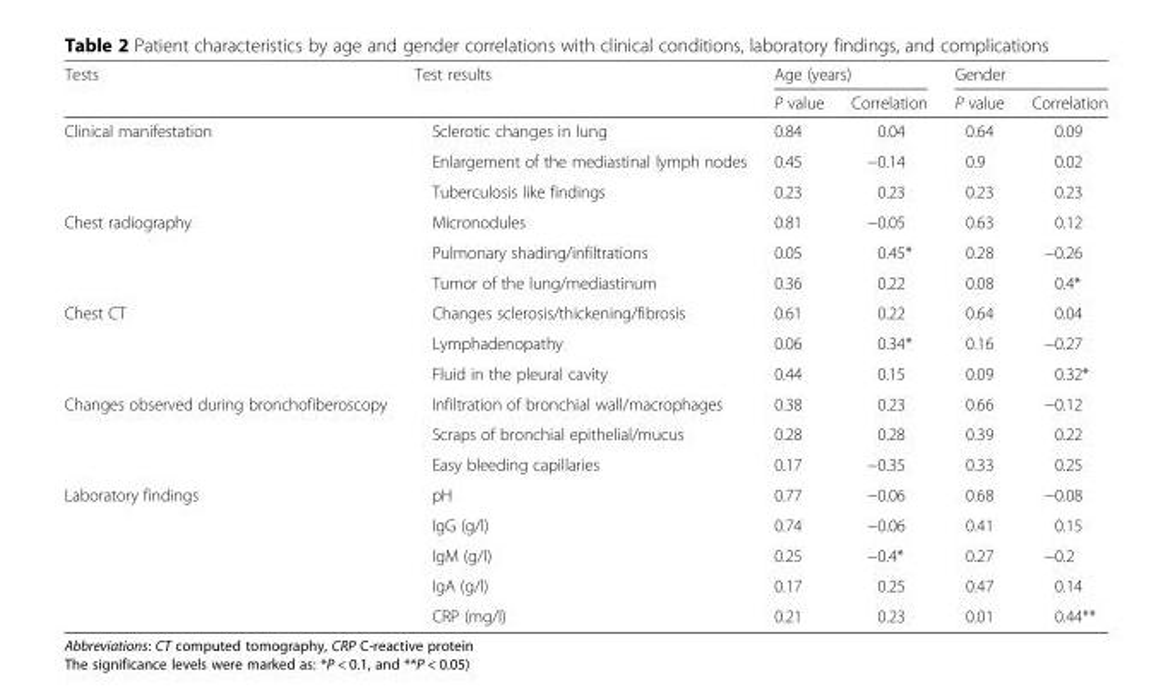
<table><thead><tr><td rowspan="2">Tests</td><td rowspan="2">Test results</td><td colspan="2">Age (years)</td><td colspan="2">Gender</td></tr><tr><td>P value</td><td>Correlation</td><td>P value</td><td>Correlation</td></tr></thead><tbody><tr><td rowspan="3">Clinical manifestation</td><td>Sclerotic changes in lung</td><td>0.84</td><td>0.04</td><td>0.64</td><td>0.09</td></tr><tr><td>Enlargement of the mediastinal lymph nodes</td><td>0.45</td><td>−0.14</td><td>0.9</td><td>0.02</td></tr><tr><td>Tuberculosis like findings</td><td>0.23</td><td>0.23</td><td>0.23</td><td>0.23</td></tr><tr><td rowspan="3">Chest radiography</td><td>Micronodules</td><td>0.81</td><td>−0.05</td><td>0.63</td><td>0.12</td></tr><tr><td>Pulmonary shading/infiltrations</td><td>0.05</td><td>0.45*</td><td>0.28</td><td>−0.26</td></tr><tr><td>Tumor of the lung/mediastinum</td><td>0.36</td><td>0.22</td><td>0.08</td><td>0.4*</td></tr><tr><td rowspan="3">Chest CT</td><td>Changes sclerosis/thickening/fibrosis</td><td>0.61</td><td>0.22</td><td>0.64</td><td>0.04</td></tr><tr><td>Lymphadenopathy</td><td>0.06</td><td>0.34*</td><td>0.16</td><td>−0.27</td></tr><tr><td>Fluid in the pleural cavity</td><td>0.44</td><td>0.15</td><td>0.09</td><td>0.32*</td></tr><tr><td rowspan="3">Changes observed during bronchofiberoscopy</td><td>Infiltration of bronchial wall/macrophages</td><td>0.38</td><td>0.23</td><td>0.66</td><td>−0.12</td></tr><tr><td>Scraps of bronchial epithelial/mucus</td><td>0.28</td><td>0.28</td><td>0.39</td><td>0.22</td></tr><tr><td>Easy bleeding capillaries</td><td>0.17</td><td>−0.35</td><td>0.33</td><td>0.25</td></tr><tr><td rowspan="5">Laboratory findings</td><td>pH</td><td>0.77</td><td>−0.06</td><td>0.68</td><td>−0.08</td></tr><tr><td>IgG (g/l)</td><td>0.74</td><td>−0.06</td><td>0.41</td><td>0.15</td></tr><tr><td>IgM (g/l)</td><td>0.25</td><td>−0.4*</td><td>0.27</td><td>−0.2</td></tr><tr><td>IgA (g/l)</td><td>0.17</td><td>0.25</td><td>0.47</td><td>0.14</td></tr><tr><td>CRP (mg/l)</td><td>0.21</td><td>0.23</td><td>0.01</td><td>0.44**</td></tr></tbody></table>